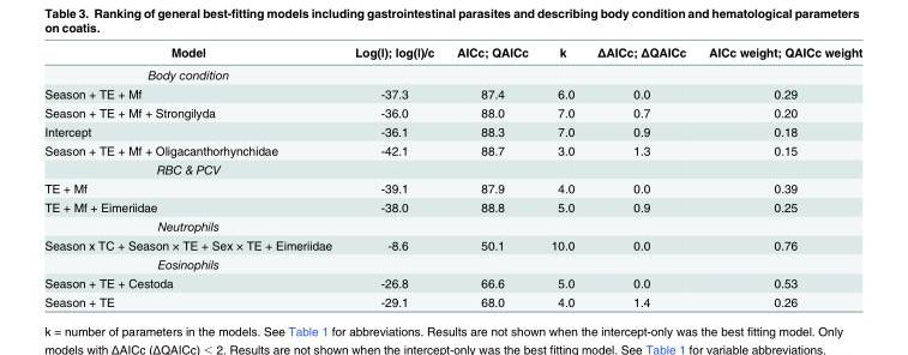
<table><thead><tr><td>Model</td><td>Log(l); log(l)/c</td><td>AICc; QAICc</td><td>k</td><td>ΔAICc; ΔQAICc</td><td>AICc weight; QAICc weight</td></tr></thead><tbody><tr><td colspan="6">Body condition</td></tr><tr><td>Season + TE + Mf</td><td>-37.3</td><td>87.4</td><td>6.0</td><td>0.0</td><td>0.29</td></tr><tr><td>Season + TE + Mf + Strongilyda</td><td>-36.0</td><td>88.0</td><td>7.0</td><td>0.7</td><td>0.20</td></tr><tr><td>Intercept</td><td>-36.1</td><td>88.3</td><td>7.0</td><td>0.9</td><td>0.18</td></tr><tr><td>Season + TE + Mf + Oligacanthorhynchidae</td><td>-42.1</td><td>88.7</td><td>3.0</td><td>1.3</td><td>0.15</td></tr><tr><td colspan="6">RBC &amp; PCV</td></tr><tr><td>TE + Mf</td><td>-39.1</td><td>87.9</td><td>4.0</td><td>0.0</td><td>0.39</td></tr><tr><td>TE + Mf + Eimeriidae</td><td>-38.0</td><td>88.8</td><td>5.0</td><td>0.9</td><td>0.25</td></tr><tr><td colspan="6">Neutrophils</td></tr><tr><td>Season x TC + Season × TE + Sex × TE + Eimeriidae</td><td>-8.6</td><td>50.1</td><td>10.0</td><td>0.0</td><td>0.76</td></tr><tr><td colspan="6">Eosinophils</td></tr><tr><td>Season + TE + Cestoda</td><td>-26.8</td><td>66.6</td><td>5.0</td><td>0.0</td><td>0.53</td></tr><tr><td>Season + TE</td><td>-29.1</td><td>68.0</td><td>4.0</td><td>1.4</td><td>0.26</td></tr></tbody></table>